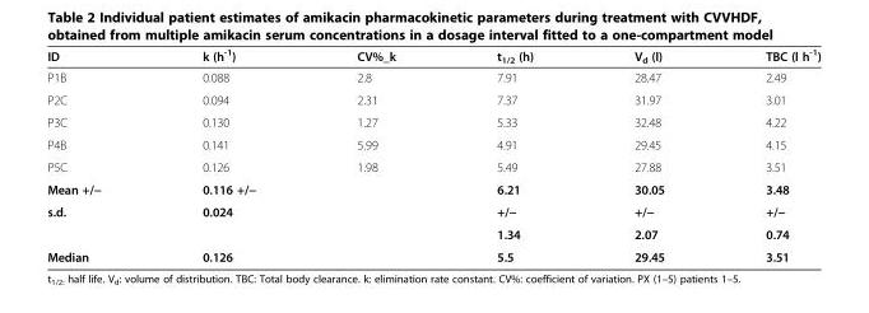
<table><thead><tr><td>ID</td><td>k (h<sup>-1</sup>)</td><td>CV%_k</td><td>t<sub>1/2</sub> (h)</td><td>V<sub>d</sub> (l)</td><td>TBC (l h<sup>-1</sup>)</td></tr></thead><tbody><tr><td>P1B</td><td>0.088</td><td>2.8</td><td>7.91</td><td>28.47</td><td>2.49</td></tr><tr><td>P2C</td><td>0.094</td><td>2.31</td><td>7.37</td><td>31.97</td><td>3.01</td></tr><tr><td>P3C</td><td>0.130</td><td>1.27</td><td>5.33</td><td>32.48</td><td>4.22</td></tr><tr><td>P4B</td><td>0.141</td><td>5.99</td><td>4.91</td><td>29.45</td><td>4.15</td></tr><tr><td>P5C</td><td>0.126</td><td>1.98</td><td>5.49</td><td>27.88</td><td>3.51</td></tr><tr><td>Mean +/−</td><td>0.116 +/−</td><td></td><td>6.21</td><td>30.05</td><td>3.48</td></tr><tr><td rowspan="2">s.d.</td><td>0.024</td><td></td><td>+/−</td><td>+/−</td><td>+/−</td></tr><tr><td></td><td></td><td>1.34</td><td>2.07</td><td>0.74</td></tr><tr><td>Median</td><td>0.126</td><td></td><td>5.5</td><td>29.45</td><td>3.51</td></tr></tbody></table>